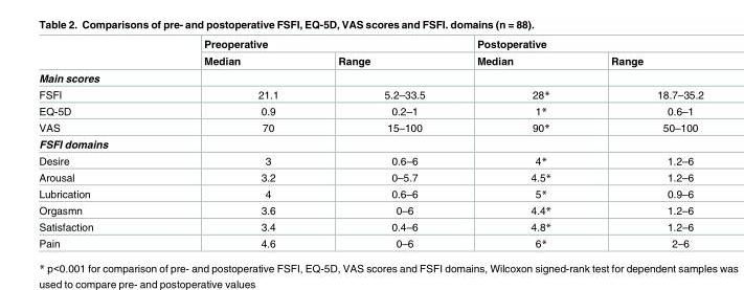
<table><thead><tr><td rowspan="2"></td><td colspan="2">Preoperative</td><td colspan="2">Postoperative</td></tr><tr><td>Median</td><td>Range</td><td>Median</td><td>Range</td></tr></thead><tbody><tr><td colspan="5">Main scores</td></tr><tr><td>FSFI</td><td>21.1</td><td>5.2–33.5</td><td>28*</td><td>18.7–35.2</td></tr><tr><td>EQ-5D</td><td>0.9</td><td>0.2–1</td><td>1*</td><td>0.6–1</td></tr><tr><td>VAS</td><td>70</td><td>15–100</td><td>90*</td><td>50–100</td></tr><tr><td colspan="5">FSFI domains</td></tr><tr><td>Desire</td><td>3</td><td>0.6–6</td><td>4*</td><td>1.2–6</td></tr><tr><td>Arousal</td><td>3.2</td><td>0–5.7</td><td>4.5*</td><td>1.2–6</td></tr><tr><td>Lubrication</td><td>4</td><td>0.6–6</td><td>5*</td><td>0.9–6</td></tr><tr><td>Orgasmn</td><td>3.6</td><td>0–6</td><td>4.4*</td><td>1.2–6</td></tr><tr><td>Satisfaction</td><td>3.4</td><td>0.4–6</td><td>4.8*</td><td>1.2–6</td></tr><tr><td>Pain</td><td>4.6</td><td>0–6</td><td>6*</td><td>2–6</td></tr></tbody></table>